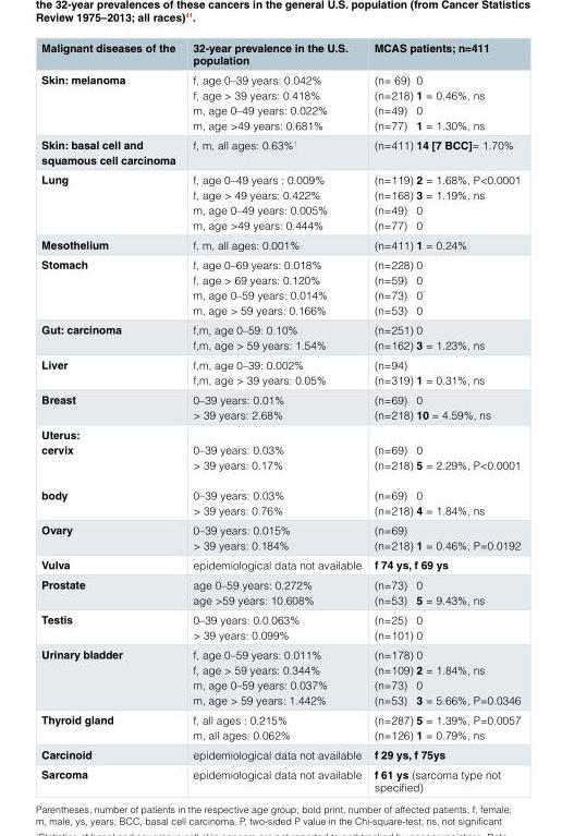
<table><thead><tr><td>Malignant diseases of the</td><td>32-year prevalence in the U.S. population</td><td>MCAS patients; n=411</td></tr></thead><tbody><tr><td>Skin: melanoma</td><td>f, age 0–39 years: 0.042% f, age &gt; 39 years: 0.418% m, age 0–49 years: 0.022% m, age &gt;49 years: 0.681%</td><td>(n= 69) 0 (n=218) 1 = 0.46%, ns (n=49) 0 (n=77) 1 = 1.30%, ns</td></tr><tr><td>Skin: basal cell and squamous cell carcinoma</td><td>f, m, all ages: 0.63%<sup>1</sup></td><td>(n=411) 14 [7 BCC]= 1.70%</td></tr><tr><td>Lung</td><td>f, age 0–49 years : 0.009% f, age &gt; 49 years: 0.422% m, age 0–49 years: 0.005% m, age &gt;49 years: 0.444%</td><td>(n=119) 2 = 1.68%, P&lt;0.0001 (n=168) 3 = 1.19%, ns (n=49) 0 (n=77) 0</td></tr><tr><td>Mesothelium</td><td>f, m, all ages: 0.001%</td><td>(n=411) 1 = 0.24%</td></tr><tr><td>Stomach</td><td>f, age 0–69 years: 0.018% f, age &gt; 69 years: 0.120% m, age 0–59 years: 0.014% m, age &gt; 59 years: 0.166%</td><td>(n=228) 0 (n=59) 0 (n=73) 0 (n=53) 0</td></tr><tr><td>Gut: carcinoma</td><td>f,m, age 0–59: 0.10% f,m, age &gt; 59 years: 1.54%</td><td>(n=251) 0 (n=162) 3 = 1.23%, ns</td></tr><tr><td>Liver</td><td>f,m, age 0–39: 0.002% f,m, age &gt; 39 years: 0.05%</td><td>(n=94) (n=319) 1 = 0.31%, ns</td></tr><tr><td>Breast</td><td>0–39 years: 0.01% &gt; 39 years: 2.68%</td><td>(n=69) 0 (n=218) 10 = 4.59%, ns</td></tr><tr><td>Uterus: cervix body</td><td>0–39 years: 0.03% &gt; 39 years: 0.17% 0–39 years: 0.03% &gt; 39 years: 0.76%</td><td>(n=69) 0 (n=218) 5 = 2.29%, P&lt;0.0001 (n=69) 0 (n=218) 4 = 1.84%, ns</td></tr><tr><td>Ovary</td><td>0–39 years: 0.015% &gt; 39 years: 0.184%</td><td>(n=69) (n=218) 1 = 0.46%, P=0.0192</td></tr><tr><td>Vulva</td><td>epidemiological data not available</td><td>f 74 ys, f 69 ys</td></tr><tr><td>Prostate</td><td>age 0–59 years: 0.272% age &gt;59 years: 10.608%</td><td>(n=73) 0 (n=53) 5 = 9.43%, ns</td></tr><tr><td>Testis</td><td>0–39 years: 0.0.063% &gt; 39 years: 0.099%</td><td>(n=25) 0 (n=101) 0</td></tr><tr><td>Urinary bladder</td><td>f, age 0–59 years: 0.011% f, age &gt; 59 years: 0.344% m, age 0–59 years: 0.037% m, age &gt; 59 years: 1.442%</td><td>(n=178) 0 (n=109) 2 = 1.84%, ns (n=73) 0 (n=53) 3 = 5.66%, P=0.0346</td></tr><tr><td>Thyroid gland</td><td>f, all ages : 0.215% m, all ages: 0.062%</td><td>(n=287) 5 = 1.39%, P=0.0057 (n=126) 1 = 0.79%, ns</td></tr><tr><td>Carcinoid</td><td>epidemiological data not available</td><td>f 29 ys, f 75ys</td></tr><tr><td>Sarcoma</td><td>epidemiological data not available</td><td>f 61 ys (sarcoma type not specified)</td></tr></tbody></table>